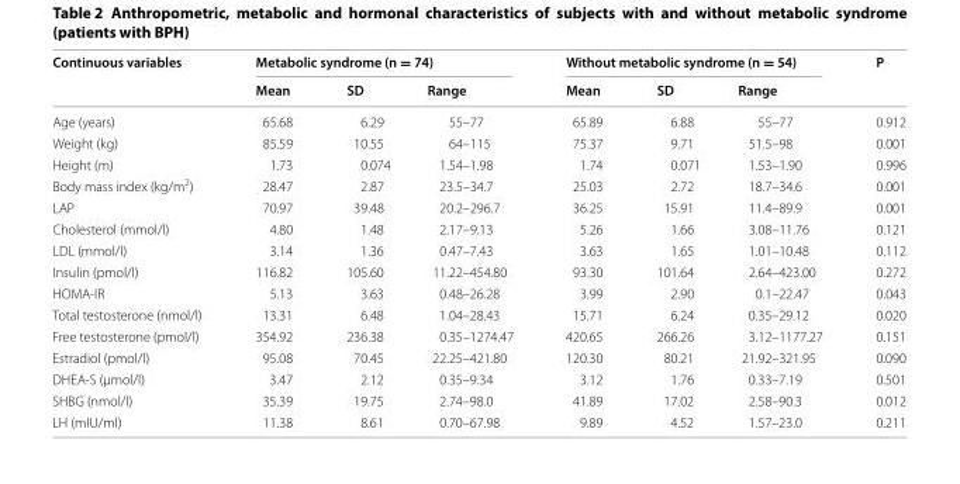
<table><thead><tr><td rowspan="2">Continuous variables</td><td colspan="3">Metabolic syndrome (n = 74)</td><td colspan="3">Without metabolic syndrome (n = 54)</td><td rowspan="2">P</td></tr><tr><td>Mean</td><td>SD</td><td>Range</td><td>Mean</td><td>SD</td><td>Range</td></tr></thead><tbody><tr><td>Age (years)</td><td>65.68</td><td>6.29</td><td>55–77</td><td>65.89</td><td>6.88</td><td>55–77</td><td>0.912</td></tr><tr><td>Weight (kg)</td><td>85.59</td><td>10.55</td><td>64–115</td><td>75.37</td><td>9.71</td><td>51.5–98</td><td>0.001</td></tr><tr><td>Height (m)</td><td>1.73</td><td>0.074</td><td>1.54–1.98</td><td>1.74</td><td>0.071</td><td>1.53–1.90</td><td>0.996</td></tr><tr><td>Body mass index (kg/m<sup>2</sup>)</td><td>28.47</td><td>2.87</td><td>23.5–34.7</td><td>25.03</td><td>2.72</td><td>18.7–34.6</td><td>0.001</td></tr><tr><td>LAP</td><td>70.97</td><td>39.48</td><td>20.2–296.7</td><td>36.25</td><td>15.91</td><td>11.4–89.9</td><td>0.001</td></tr><tr><td>Cholesterol (mmol/l)</td><td>4.80</td><td>1.48</td><td>2.17–9.13</td><td>5.26</td><td>1.66</td><td>3.08–11.76</td><td>0.121</td></tr><tr><td>LDL (mmol/l)</td><td>3.14</td><td>1.36</td><td>0.47–7.43</td><td>3.63</td><td>1.65</td><td>1.01–10.48</td><td>0.112</td></tr><tr><td>Insulin (pmol/l)</td><td>116.82</td><td>105.60</td><td>11.22–454.80</td><td>93.30</td><td>101.64</td><td>2.64–423.00</td><td>0.272</td></tr><tr><td>HOMA-IR</td><td>5.13</td><td>3.63</td><td>0.48–26.28</td><td>3.99</td><td>2.90</td><td>0.1–22.47</td><td>0.043</td></tr><tr><td>Total testosterone (nmol/l)</td><td>13.31</td><td>6.48</td><td>1.04–28.43</td><td>15.71</td><td>6.24</td><td>0.35–29.12</td><td>0.020</td></tr><tr><td>Free testosterone (pmol/l)</td><td>354.92</td><td>236.38</td><td>0.35–1274.47</td><td>420.65</td><td>266.26</td><td>3.12–1177.27</td><td>0.151</td></tr><tr><td>Estradiol (pmol/l)</td><td>95.08</td><td>70.45</td><td>22.25–421.80</td><td>120.30</td><td>80.21</td><td>21.92–321.95</td><td>0.090</td></tr><tr><td>DHEA-S (μmol/l)</td><td>3.47</td><td>2.12</td><td>0.35–9.34</td><td>3.12</td><td>1.76</td><td>0.33–7.19</td><td>0.501</td></tr><tr><td>SHBG (nmol/l)</td><td>35.39</td><td>19.75</td><td>2.74–98.0</td><td>41.89</td><td>17.02</td><td>2.58–90.3</td><td>0.012</td></tr><tr><td>LH (mIU/ml)</td><td>11.38</td><td>8.61</td><td>0.70–67.98</td><td>9.89</td><td>4.52</td><td>1.57–23.0</td><td>0.211</td></tr></tbody></table>